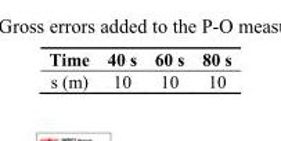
<table><thead><tr><td>Time</td><td>40 s</td><td>60 s</td><td>80 s</td></tr></thead><tbody><tr><td>s (m)</td><td>10</td><td>10</td><td>10</td></tr></tbody></table>